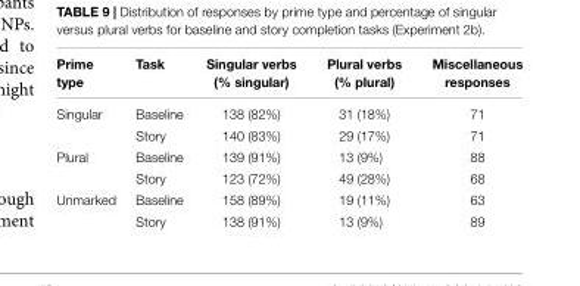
<table><thead><tr><td>Prime type</td><td>Task</td><td>Singular verbs (% singular)</td><td>Plural verbs (% plural)</td><td>Miscellaneous responses</td></tr></thead><tbody><tr><td rowspan="2">Singular</td><td>Baseline</td><td>138 (82%)</td><td>31 (18%)</td><td>71</td></tr><tr><td>Story</td><td>140 (83%)</td><td>29 (17%)</td><td>71</td></tr><tr><td rowspan="2">Plural</td><td>Baseline</td><td>139 (91%)</td><td>13 (9%)</td><td>88</td></tr><tr><td>Story</td><td>123 (72%)</td><td>49 (28%)</td><td>68</td></tr><tr><td rowspan="2">Unmarked</td><td>Baseline</td><td>158 (89%)</td><td>19 (11%)</td><td>63</td></tr><tr><td>Story</td><td>138 (91%)</td><td>13 (9%)</td><td>89</td></tr></tbody></table>